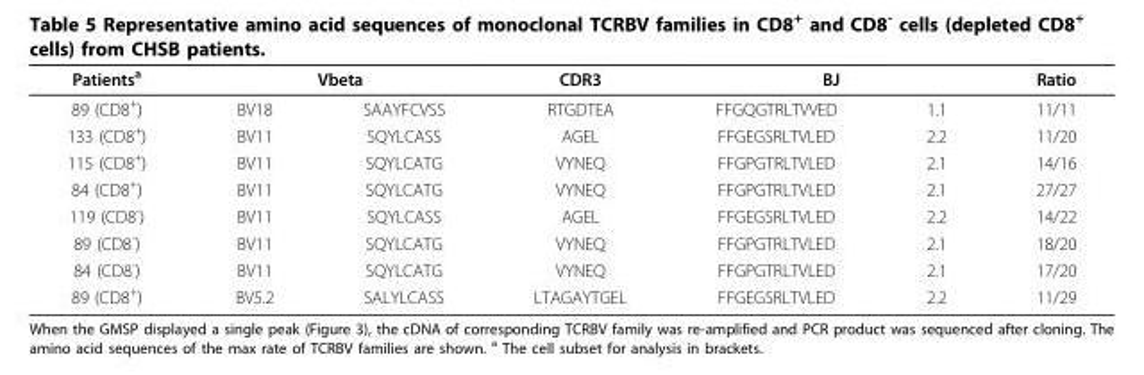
<table><thead><tr><td rowspan="2">Patients<sup>a</sup> 89 (CD8<sup>+</sup>)</td><td colspan="2">Vbeta</td><td rowspan="2">CDR3 RTGDTEA</td><td colspan="2">BJ</td><td rowspan="2">Ratio 11/11</td></tr><tr><td>BV18</td><td>SAAYFCVSS</td><td>FFGQGTRLTVVED</td><td>1.1</td></tr></thead><tbody><tr><td>133 (CD8<sup>+</sup>)</td><td>BV11</td><td>SQYLCASS</td><td>AGEL</td><td>FFGEGSRLTVLED</td><td>2.2</td><td>11/20</td></tr><tr><td>115 (CD8<sup>+</sup>)</td><td>BV11</td><td>SQYLCATG</td><td>VYNEQ</td><td>FFGPGTRLTVLED</td><td>2.1</td><td>14/16</td></tr><tr><td>84 (CD8<sup>+</sup>)</td><td>BV11</td><td>SQYLCATG</td><td>VYNEQ</td><td>FFGPGTRLTVLED</td><td>2.1</td><td>27/27</td></tr><tr><td>119 (CD8<sup>-</sup>)</td><td>BV11</td><td>SQYLCASS</td><td>AGEL</td><td>FFGEGSRLTVLED</td><td>2.2</td><td>14/22</td></tr><tr><td>89 (CD8<sup>-</sup>)</td><td>BV11</td><td>SQYLCATG</td><td>VYNEQ</td><td>FFGPGTRLTVLED</td><td>2.1</td><td>18/20</td></tr><tr><td>84 (CD8<sup>-</sup>)</td><td>BV11</td><td>SQYLCATG</td><td>VYNEQ</td><td>FFGPGTRLTVLED</td><td>2.1</td><td>17/20</td></tr><tr><td>89 (CD8<sup>+</sup>)</td><td>BV5.2</td><td>SALYLCASS</td><td>LTAGAYTGEL</td><td>FFGEGSRLTVLED</td><td>2.2</td><td>11/29</td></tr></tbody></table>